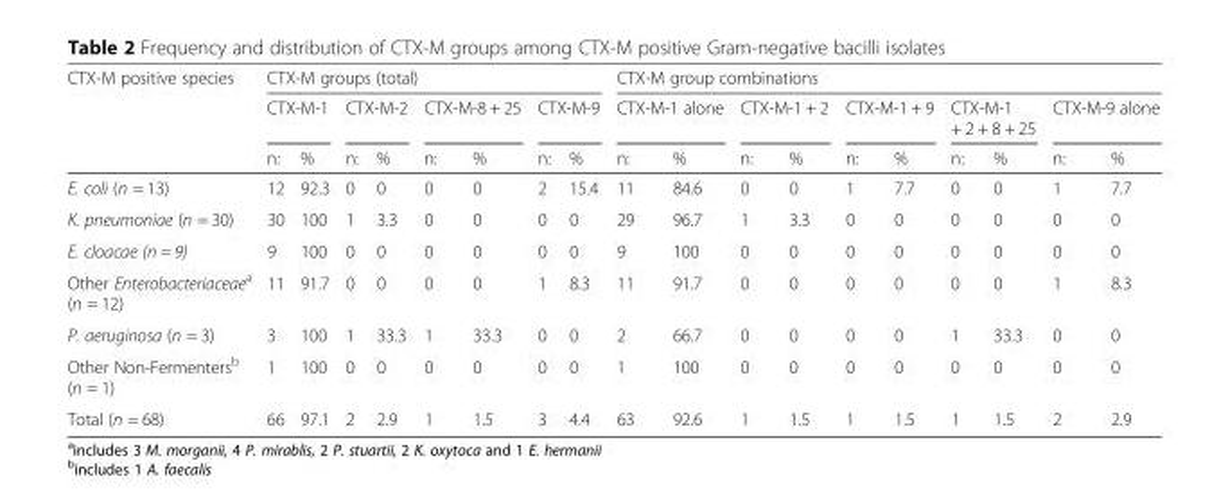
<table><thead><tr><td rowspan="3">CTX-M positive species</td><td colspan="8">CTX-M groups (total)</td><td colspan="10">CTX-M group combinations</td></tr><tr><td colspan="2">CTX-M-1</td><td colspan="2">CTX-M-2</td><td colspan="2">CTX-M-8 + 25</td><td colspan="2">CTX-M-9</td><td colspan="2">CTX-M-1 alone</td><td colspan="2">CTX-M-1 + 2</td><td colspan="2">CTX-M-1 + 9</td><td colspan="2">CTX-M-1 + 2 + 8 + 25</td><td colspan="2">CTX-M-9 alone</td></tr><tr><td>n:</td><td>%</td><td>n:</td><td>%</td><td>n:</td><td>%</td><td>n:</td><td>%</td><td>n:</td><td>%</td><td>n:</td><td>%</td><td>n:</td><td>%</td><td>n:</td><td>%</td><td>n:</td><td>%</td></tr></thead><tbody><tr><td>E. coli (n = 13)</td><td>12</td><td>92.3</td><td>0</td><td>0</td><td>0</td><td>0</td><td>2</td><td>15.4</td><td>11</td><td>84.6</td><td>0</td><td>0</td><td>1</td><td>7.7</td><td>0</td><td>0</td><td>1</td><td>7.7</td></tr><tr><td>K. pneumoniae (n = 30)</td><td>30</td><td>100</td><td>1</td><td>3.3</td><td>0</td><td>0</td><td>0</td><td>0</td><td>29</td><td>96.7</td><td>1</td><td>3.3</td><td>0</td><td>0</td><td>0</td><td>0</td><td>0</td><td>0</td></tr><tr><td>E. cloacae (n = 9)</td><td>9</td><td>100</td><td>0</td><td>0</td><td>0</td><td>0</td><td>0</td><td>0</td><td>9</td><td>100</td><td>0</td><td>0</td><td>0</td><td>0</td><td>0</td><td>0</td><td>0</td><td>0</td></tr><tr><td>Other Enterobacteriaceae<sup>a</sup> (n = 12)</td><td>11</td><td>91.7</td><td>0</td><td>0</td><td>0</td><td>0</td><td>1</td><td>8.3</td><td>11</td><td>91.7</td><td>0</td><td>0</td><td>0</td><td>0</td><td>0</td><td>0</td><td>1</td><td>8.3</td></tr><tr><td>P. aeruginosa (n = 3)</td><td>3</td><td>100</td><td>1</td><td>33.3</td><td>1</td><td>33.3</td><td>0</td><td>0</td><td>2</td><td>66.7</td><td>0</td><td>0</td><td>0</td><td>0</td><td>1</td><td>33.3</td><td>0</td><td>0</td></tr><tr><td>Other Non-Fermenters<sup>b</sup> (n = 1)</td><td>1</td><td>100</td><td>0</td><td>0</td><td>0</td><td>0</td><td>0</td><td>0</td><td>1</td><td>100</td><td>0</td><td>0</td><td>0</td><td>0</td><td>0</td><td>0</td><td>0</td><td>0</td></tr><tr><td>Total (n = 68)</td><td>66</td><td>97.1</td><td>2</td><td>2.9</td><td>1</td><td>1.5</td><td>3</td><td>4.4</td><td>63</td><td>92.6</td><td>1</td><td>1.5</td><td>1</td><td>1.5</td><td>1</td><td>1.5</td><td>2</td><td>2.9</td></tr></tbody></table>